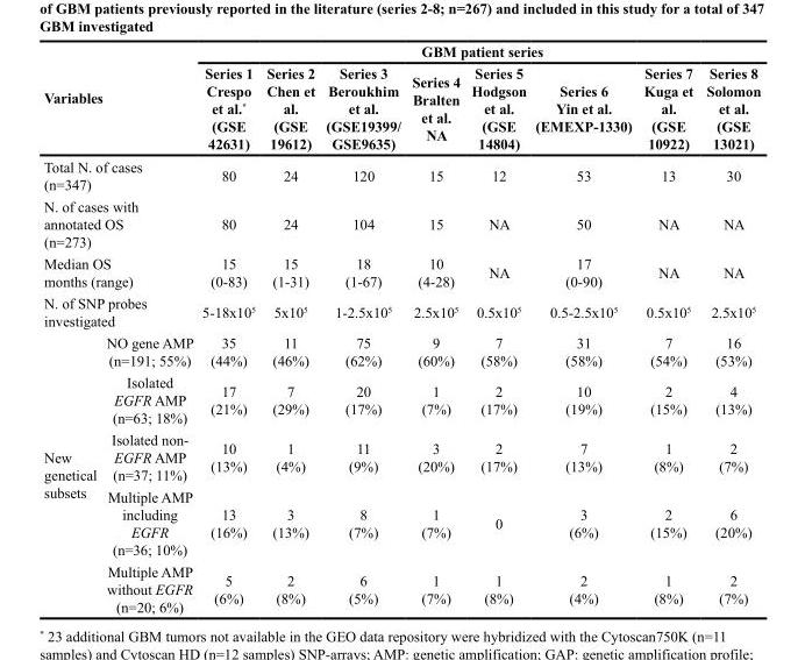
<table><thead><tr><td rowspan="2" colspan="2">Variables</td><td colspan="8">GBM patient series</td></tr><tr><td>Series 1 Crespo et al.* (GSE 42631)</td><td>Series 2 Chen et al. (GSE 19612)</td><td>Series 3 Beroukhim et al. (GSE19399/ GSE9635)</td><td>Series 4 Bralten et al. NA</td><td>Series 5 Hodgson et al. (GSE 14804)</td><td>Series 6 Yin et al. (EMEXP-1330)</td><td>Series 7 Kuga et al. (GSE 10922)</td><td>Series 8 Solomon et al. (GSE 13021)</td></tr></thead><tbody><tr><td colspan="2">Total N. of cases (n=347)</td><td>80</td><td>24</td><td>120</td><td>15</td><td>12</td><td>53</td><td>13</td><td>30</td></tr><tr><td colspan="2">N. of cases with annotated OS (n=273)</td><td>80</td><td>24</td><td>104</td><td>15</td><td>NA</td><td>50</td><td>NA</td><td>NA</td></tr><tr><td colspan="2">Median OS months (range)</td><td>15 (0-83)</td><td>15 (1-31)</td><td>18 (1-67)</td><td>10 (4-28)</td><td>NA</td><td>17 (0-90)</td><td>NA</td><td>NA</td></tr><tr><td colspan="2">N. of SNP probes investigated</td><td>5-18x105</td><td>5x105</td><td>1-2.5x105</td><td>2.5x105</td><td>0.5x105</td><td>0.5-2.5x105</td><td>0.5x105</td><td>2.5x105</td></tr><tr><td rowspan="5">New genetical subsets</td><td>NO gene AMP (n=191; 55%)</td><td>35 (44%)</td><td>11 (46%)</td><td>75 (62%)</td><td>9 (60%)</td><td>7 (58%)</td><td>31 (58%)</td><td>7 (54%)</td><td>16 (53%)</td></tr><tr><td>Isolated EGFR AMP (n=63; 18%)</td><td>17 (21%)</td><td>7 (29%)</td><td>20 (17%)</td><td>1 (7%)</td><td>2 (17%)</td><td>10 (19%)</td><td>2 (15%)</td><td>4 (13%)</td></tr><tr><td>Isolated non- EGFR AMP (n=37; 11%)</td><td>10 (13%)</td><td>1 (4%)</td><td>11 (9%)</td><td>3 (20%)</td><td>2 (17%)</td><td>7 (13%)</td><td>1 (8%)</td><td>2 (7%)</td></tr><tr><td>Multiple AMP including EGFR (n=36; 10%)</td><td>13 (16%)</td><td>3 (13%)</td><td>8 (7%)</td><td>1 (7%)</td><td>0</td><td>3 (6%)</td><td>2 (15%)</td><td>6 (20%)</td></tr><tr><td>Multiple AMP without EGFR (n=20; 6%)</td><td>5 (6%)</td><td>2 (8%)</td><td>6 (5%)</td><td>1 (7%)</td><td>1 (8%)</td><td>2 (4%)</td><td>1 (8%)</td><td>2 (7%)</td></tr></tbody></table>